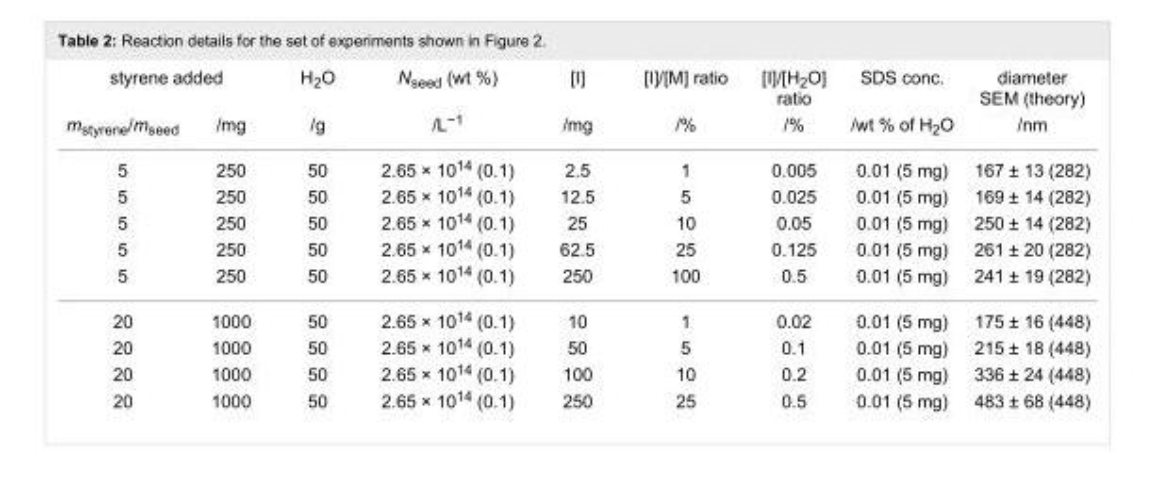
<table><tbody><tr><td colspan="2">styrene added</td><td>H<sub>2</sub>O</td><td>N<sub>seed</sub> (wt %)</td><td>[I]</td><td>[I]/[M] ratio</td><td>[I]/[H<sub>2</sub>O] ratio</td><td>SDS conc.</td><td>diameter SEM (theory)</td></tr><tr><td>m<sub>styrene</sub>/m<sub>seed</sub></td><td>/mg</td><td>/g</td><td>/L<sup>−1</sup></td><td>/mg</td><td>/%</td><td>/%</td><td>/wt % of H<sub>2</sub>O</td><td>/nm</td></tr><tr><td>5</td><td>250</td><td>50</td><td>2.65 × 10<sup>14</sup> (0.1)</td><td>2.5</td><td>1</td><td>0.005</td><td>0.01 (5 mg)</td><td>167 ± 13 (282)</td></tr><tr><td>5</td><td>250</td><td>50</td><td>2.65 × 10<sup>14</sup> (0.1)</td><td>12.5</td><td>5</td><td>0.025</td><td>0.01 (5 mg)</td><td>169 ± 14 (282)</td></tr><tr><td>5</td><td>250</td><td>50</td><td>2.65 × 10<sup>14</sup> (0.1)</td><td>25</td><td>10</td><td>0.05</td><td>0.01 (5 mg)</td><td>250 ± 14 (282)</td></tr><tr><td>5</td><td>250</td><td>50</td><td>2.65 × 10<sup>14</sup> (0.1)</td><td>62.5</td><td>25</td><td>0.125</td><td>0.01 (5 mg)</td><td>261 ± 20 (282)</td></tr><tr><td>5</td><td>250</td><td>50</td><td>2.65 × 10<sup>14</sup> (0.1)</td><td>250</td><td>100</td><td>0.5</td><td>0.01 (5 mg)</td><td>241 ± 19 (282)</td></tr><tr><td>20</td><td>1000</td><td>50</td><td>2.65 × 10<sup>14</sup> (0.1)</td><td>10</td><td>1</td><td>0.02</td><td>0.01 (5 mg)</td><td>175 ± 16 (448)</td></tr><tr><td>20</td><td>1000</td><td>50</td><td>2.65 × 10<sup>14</sup> (0.1)</td><td>50</td><td>5</td><td>0.1</td><td>0.01 (5 mg)</td><td>215 ± 18 (448)</td></tr><tr><td>20</td><td>1000</td><td>50</td><td>2.65 × 10<sup>14</sup> (0.1)</td><td>100</td><td>10</td><td>0.2</td><td>0.01 (5 mg)</td><td>336 ± 24 (448)</td></tr><tr><td>20</td><td>1000</td><td>50</td><td>2.65 × 10<sup>14</sup> (0.1)</td><td>250</td><td>25</td><td>0.5</td><td>0.01 (5 mg)</td><td>483 ± 68 (448)</td></tr></tbody></table>